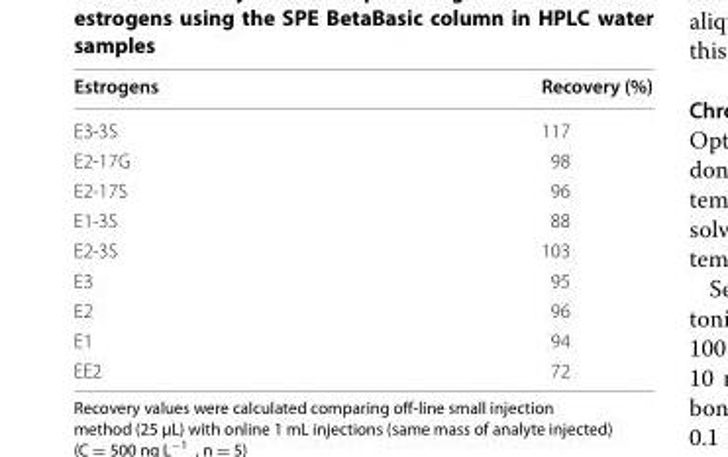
<table><thead><tr><td>Estrogens</td><td>Recovery (%)</td></tr></thead><tbody><tr><td>E3-3S</td><td>117</td></tr><tr><td>E2-17G</td><td>98</td></tr><tr><td>E2-17S</td><td>96</td></tr><tr><td>E1-3S</td><td>88</td></tr><tr><td>E2-3S</td><td>103</td></tr><tr><td>E3</td><td>95</td></tr><tr><td>E2</td><td>96</td></tr><tr><td>E1</td><td>94</td></tr><tr><td>EE2</td><td>72</td></tr></tbody></table>